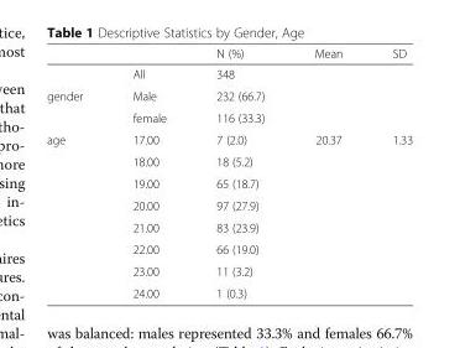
<table><thead><tr><td></td><td></td><td>N (%)</td><td>Mean</td><td>SD</td></tr></thead><tbody><tr><td></td><td>All</td><td>348</td><td></td><td></td></tr><tr><td rowspan="2">gender</td><td>Male</td><td>232 (66.7)</td><td></td><td></td></tr><tr><td>female</td><td>116 (33.3)</td><td></td><td></td></tr><tr><td rowspan="8">age</td><td>17.00</td><td>7 (2.0)</td><td>20.37</td><td>1.33</td></tr><tr><td>18.00</td><td>18 (5.2)</td><td></td><td></td></tr><tr><td>19.00</td><td>65 (18.7)</td><td></td><td></td></tr><tr><td>20.00</td><td>97 (27.9)</td><td></td><td></td></tr><tr><td>21.00</td><td>83 (23.9)</td><td></td><td></td></tr><tr><td>22.00</td><td>66 (19.0)</td><td></td><td></td></tr><tr><td>23.00</td><td>11 (3.2)</td><td></td><td></td></tr><tr><td>24.00</td><td>1 (0.3)</td><td></td><td></td></tr></tbody></table>